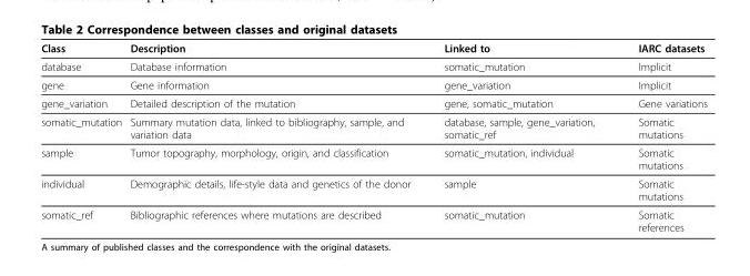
<table><thead><tr><td>Class</td><td>Description</td><td>Linked to</td><td>IARC datasets</td></tr></thead><tbody><tr><td>database</td><td>Database information</td><td>somatic_mutation</td><td>Implicit</td></tr><tr><td>gene</td><td>Gene information</td><td>gene_variation</td><td>Implicit</td></tr><tr><td>gene_variation</td><td>Detailed description of the mutation</td><td>gene, somatic_mutation</td><td>Gene variations</td></tr><tr><td>somatic_mutation</td><td>Summary mutation data, linked to bibliography, sample, and variation data</td><td>database, sample, gene_variation, somatic_ref</td><td>Somatic mutations</td></tr><tr><td>sample</td><td>Tumor topography, morphology, origin, and classification</td><td>somatic_mutation, individual</td><td>Somatic mutations</td></tr><tr><td>individual</td><td>Demographic details, life-style data and genetics of the donor</td><td>sample</td><td>Somatic mutations</td></tr><tr><td>somatic_ref</td><td>Bibliographic references where mutations are described</td><td>somatic_mutation</td><td>Somatic references</td></tr></tbody></table>